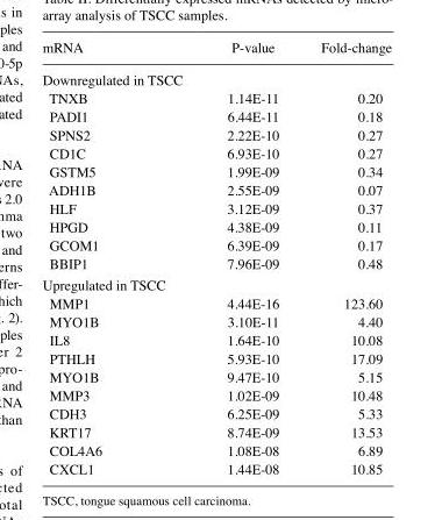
<table><thead><tr><td>mRNA</td><td>P-value</td><td>Fold-change</td></tr></thead><tbody><tr><td colspan="3">Downregulated in TSCC</td></tr><tr><td>TNXB</td><td>1.14E-11</td><td>0.20</td></tr><tr><td>PADI1</td><td>6.44E-11</td><td>0.18</td></tr><tr><td>SPNS2</td><td>2.22E-10</td><td>0.27</td></tr><tr><td>CD1C</td><td>6.93E-10</td><td>0.27</td></tr><tr><td>GSTM5</td><td>1.99E-09</td><td>0.34</td></tr><tr><td>ADH1B</td><td>2.55E-09</td><td>0.07</td></tr><tr><td>HLF</td><td>3.12E-09</td><td>0.37</td></tr><tr><td>HPGD</td><td>4.38E-09</td><td>0.11</td></tr><tr><td>GCOM1</td><td>6.39E-09</td><td>0.17</td></tr><tr><td>BBIP1</td><td>7.96E-09</td><td>0.48</td></tr><tr><td colspan="3">Upregulated in TSCC</td></tr><tr><td>MMP1</td><td>4.44E-16</td><td>123.60</td></tr><tr><td>MYO1B</td><td>3.10E-11</td><td>4.40</td></tr><tr><td>IL8</td><td>1.64E-10</td><td>10.08</td></tr><tr><td>PTHLH</td><td>5.93E-10</td><td>17.09</td></tr><tr><td>MYO1B</td><td>9.47E-10</td><td>5.15</td></tr><tr><td>MMP3</td><td>1.02E-09</td><td>10.48</td></tr><tr><td>CDH3</td><td>6.25E-09</td><td>5.33</td></tr><tr><td>KRT17</td><td>8.74E-09</td><td>13.53</td></tr><tr><td>COL4A6</td><td>1.08E-08</td><td>6.89</td></tr><tr><td>CXCL1</td><td>1.44E-08</td><td>10.85</td></tr></tbody></table>